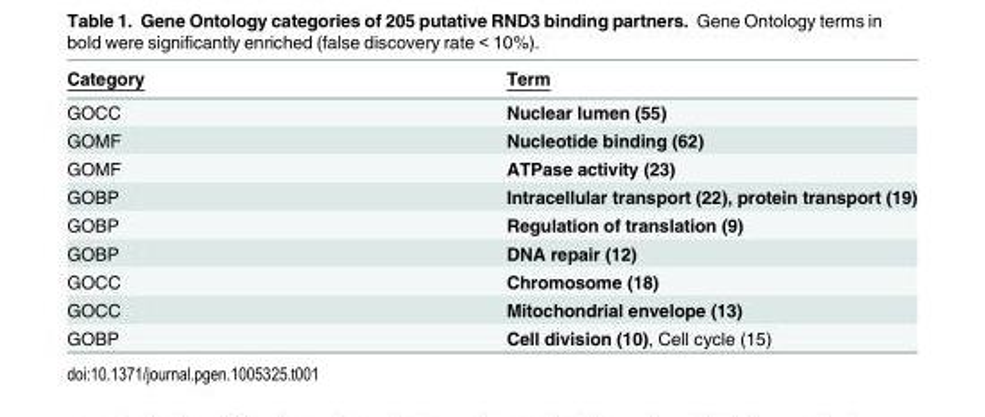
<table><thead><tr><td>Category</td><td>Term</td></tr></thead><tbody><tr><td>GOCC</td><td>Nuclear lumen (55)</td></tr><tr><td>GOMF</td><td>Nucleotide binding (62)</td></tr><tr><td>GOMF</td><td>ATPase activity (23)</td></tr><tr><td>GOBP</td><td>Intracellular transport (22), protein transport (19)</td></tr><tr><td>GOBP</td><td>Regulation of translation (9)</td></tr><tr><td>GOBP</td><td>DNA repair (12)</td></tr><tr><td>GOCC</td><td>Chromosome (18)</td></tr><tr><td>GOCC</td><td>Mitochondrial envelope (13)</td></tr><tr><td>GOBP</td><td>Cell division (10), Cell cycle (15)</td></tr></tbody></table>